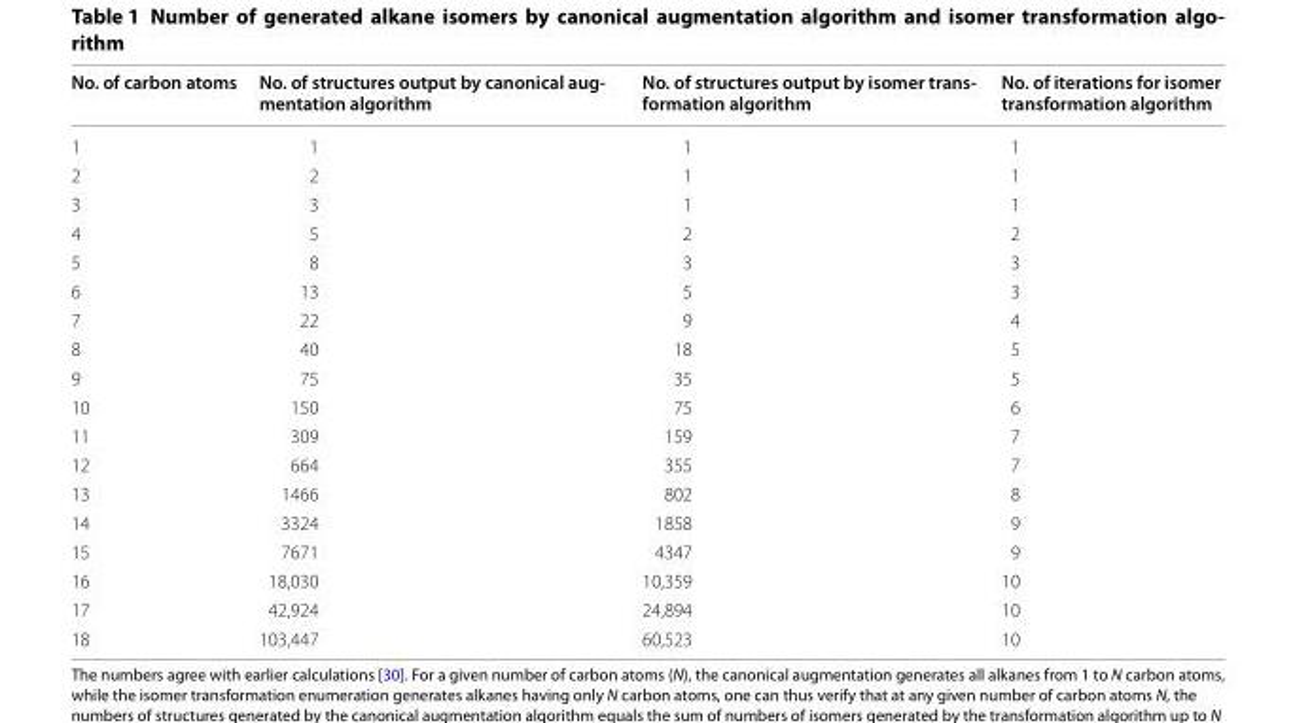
<table><thead><tr><td>No. of carbon atoms</td><td>No. of structures output by canonical aug- mentation algorithm</td><td>No. of structures output by isomer trans- formation algorithm</td><td>No. of iterations for isomer transformation algorithm</td></tr></thead><tbody><tr><td>1</td><td>1</td><td>1</td><td>1</td></tr><tr><td>2</td><td>2</td><td>1</td><td>1</td></tr><tr><td>3</td><td>3</td><td>1</td><td>1</td></tr><tr><td>4</td><td>5</td><td>2</td><td>2</td></tr><tr><td>5</td><td>8</td><td>3</td><td>3</td></tr><tr><td>6</td><td>13</td><td>5</td><td>3</td></tr><tr><td>7</td><td>22</td><td>9</td><td>4</td></tr><tr><td>8</td><td>40</td><td>18</td><td>5</td></tr><tr><td>9</td><td>75</td><td>35</td><td>5</td></tr><tr><td>10</td><td>150</td><td>75</td><td>6</td></tr><tr><td>11</td><td>309</td><td>159</td><td>7</td></tr><tr><td>12</td><td>664</td><td>355</td><td>7</td></tr><tr><td>13</td><td>1466</td><td>802</td><td>8</td></tr><tr><td>14</td><td>3324</td><td>1858</td><td>9</td></tr><tr><td>15</td><td>7671</td><td>4347</td><td>9</td></tr><tr><td>16</td><td>18,030</td><td>10,359</td><td>10</td></tr><tr><td>17</td><td>42,924</td><td>24,894</td><td>10</td></tr><tr><td>18</td><td>103,447</td><td>60,523</td><td>10</td></tr></tbody></table>